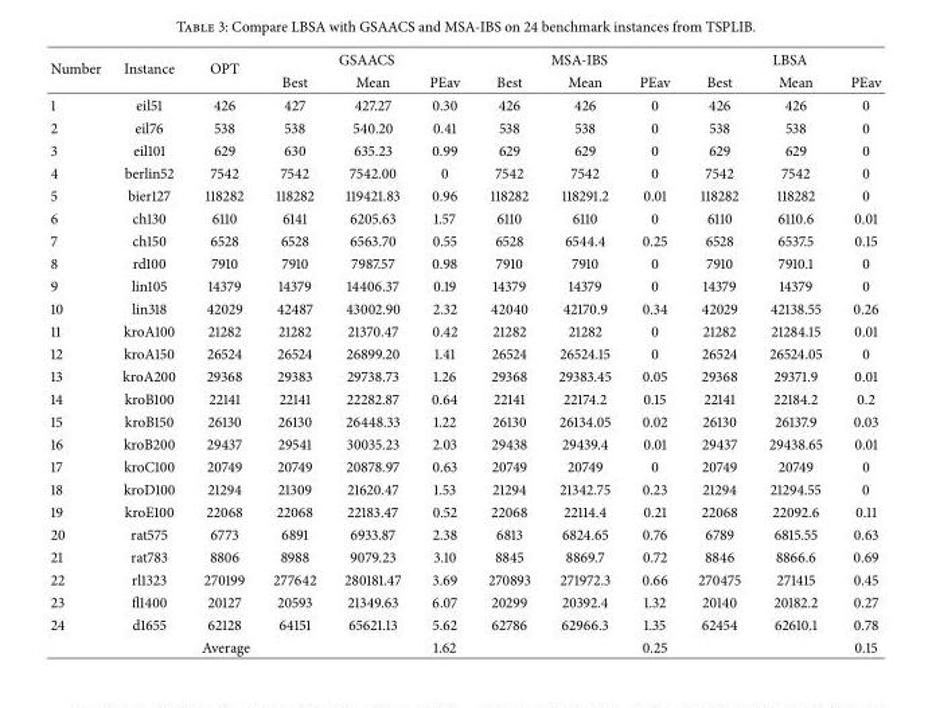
<table><thead><tr><td rowspan="2">Number</td><td rowspan="2">Instance</td><td rowspan="2">OPT</td><td colspan="3">GSAACS</td><td colspan="3">MSA-IBS</td><td colspan="3">LBSA</td></tr><tr><td>Best</td><td>Mean</td><td>PEav</td><td>Best</td><td>Mean</td><td>PEav</td><td>Best</td><td>Mean</td><td>PEav</td></tr></thead><tbody><tr><td>1</td><td>eil51</td><td>426</td><td>427</td><td>427.27</td><td>0.30</td><td>426</td><td>426</td><td>0</td><td>426</td><td>426</td><td>0</td></tr><tr><td>2</td><td>eil76</td><td>538</td><td>538</td><td>540.20</td><td>0.41</td><td>538</td><td>538</td><td>0</td><td>538</td><td>538</td><td>0</td></tr><tr><td>3</td><td>eil101</td><td>629</td><td>630</td><td>635.23</td><td>0.99</td><td>629</td><td>629</td><td>0</td><td>629</td><td>629</td><td>0</td></tr><tr><td>4</td><td>berlin52</td><td>7542</td><td>7542</td><td>7542.00</td><td>0</td><td>7542</td><td>7542</td><td>0</td><td>7542</td><td>7542</td><td>0</td></tr><tr><td>5</td><td>bier127</td><td>118282</td><td>118282</td><td>119421.83</td><td>0.96</td><td>118282</td><td>118291.2</td><td>0.01</td><td>118282</td><td>118282</td><td>0</td></tr><tr><td>6</td><td>ch130</td><td>6110</td><td>6141</td><td>6205.63</td><td>1.57</td><td>6110</td><td>6110</td><td>0</td><td>6110</td><td>6110.6</td><td>0.01</td></tr><tr><td>7</td><td>ch150</td><td>6528</td><td>6528</td><td>6563.70</td><td>0.55</td><td>6528</td><td>6544.4</td><td>0.25</td><td>6528</td><td>6537.5</td><td>0.15</td></tr><tr><td>8</td><td>rd100</td><td>7910</td><td>7910</td><td>7987.57</td><td>0.98</td><td>7910</td><td>7910</td><td>0</td><td>7910</td><td>7910.1</td><td>0</td></tr><tr><td>9</td><td>lin105</td><td>14379</td><td>14379</td><td>14406.37</td><td>0.19</td><td>14379</td><td>14379</td><td>0</td><td>14379</td><td>14379</td><td>0</td></tr><tr><td>10</td><td>lin318</td><td>42029</td><td>42487</td><td>43002.90</td><td>2.32</td><td>42040</td><td>42170.9</td><td>0.34</td><td>42029</td><td>42138.55</td><td>0.26</td></tr><tr><td>11</td><td>kroA100</td><td>21282</td><td>21282</td><td>21370.47</td><td>0.42</td><td>21282</td><td>21282</td><td>0</td><td>21282</td><td>21284.15</td><td>0.01</td></tr><tr><td>12</td><td>kroA150</td><td>26524</td><td>26524</td><td>26899.20</td><td>1.41</td><td>26524</td><td>26524.15</td><td>0</td><td>26524</td><td>26524.05</td><td>0</td></tr><tr><td>13</td><td>kroA200</td><td>29368</td><td>29383</td><td>29738.73</td><td>1.26</td><td>29368</td><td>29383.45</td><td>0.05</td><td>29368</td><td>29371.9</td><td>0.01</td></tr><tr><td>14</td><td>kroB100</td><td>22141</td><td>22141</td><td>22282.87</td><td>0.64</td><td>22141</td><td>22174.2</td><td>0.15</td><td>22141</td><td>22184.2</td><td>0.2</td></tr><tr><td>15</td><td>kroB150</td><td>26130</td><td>26130</td><td>26448.33</td><td>1.22</td><td>26130</td><td>26134.05</td><td>0.02</td><td>26130</td><td>26137.9</td><td>0.03</td></tr><tr><td>16</td><td>kroB200</td><td>29437</td><td>29541</td><td>30035.23</td><td>2.03</td><td>29438</td><td>29439.4</td><td>0.01</td><td>29437</td><td>29438.65</td><td>0.01</td></tr><tr><td>17</td><td>kroC100</td><td>20749</td><td>20749</td><td>20878.97</td><td>0.63</td><td>20749</td><td>20749</td><td>0</td><td>20749</td><td>20749</td><td>0</td></tr><tr><td>18</td><td>kroD100</td><td>21294</td><td>21309</td><td>21620.47</td><td>1.53</td><td>21294</td><td>21342.75</td><td>0.23</td><td>21294</td><td>21294.55</td><td>0</td></tr><tr><td>19</td><td>kroE100</td><td>22068</td><td>22068</td><td>22183.47</td><td>0.52</td><td>22068</td><td>22114.4</td><td>0.21</td><td>22068</td><td>22092.6</td><td>0.11</td></tr><tr><td>20</td><td>rat575</td><td>6773</td><td>6891</td><td>6933.87</td><td>2.38</td><td>6813</td><td>6824.65</td><td>0.76</td><td>6789</td><td>6815.55</td><td>0.63</td></tr><tr><td>21</td><td>rat783</td><td>8806</td><td>8988</td><td>9079.23</td><td>3.10</td><td>8845</td><td>8869.7</td><td>0.72</td><td>8846</td><td>8866.6</td><td>0.69</td></tr><tr><td>22</td><td>rl1323</td><td>270199</td><td>277642</td><td>280181.47</td><td>3.69</td><td>270893</td><td>271972.3</td><td>0.66</td><td>270475</td><td>271415</td><td>0.45</td></tr><tr><td>23</td><td>fl1400</td><td>20127</td><td>20593</td><td>21349.63</td><td>6.07</td><td>20299</td><td>20392.4</td><td>1.32</td><td>20140</td><td>20182.2</td><td>0.27</td></tr><tr><td>24</td><td>d1655</td><td>62128</td><td>64151</td><td>65621.13</td><td>5.62</td><td>62786</td><td>62966.3</td><td>1.35</td><td>62454</td><td>62610.1</td><td>0.78</td></tr><tr><td colspan="5">Average</td><td>1.62</td><td colspan="2"></td><td>0.25</td><td colspan="2"></td><td>0.15</td></tr></tbody></table>